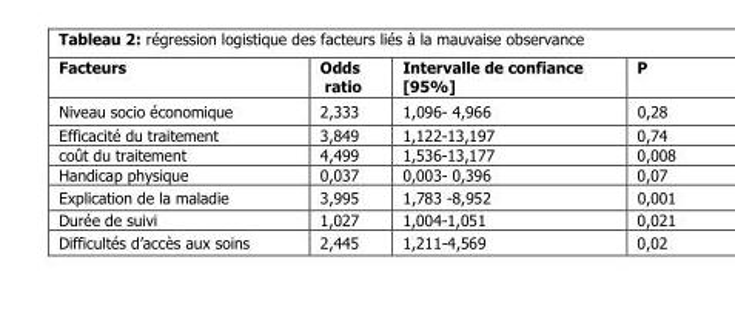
<table><thead><tr><td>Facteurs</td><td>Odds ratio</td><td>Intervalle de confiance [95%]</td><td>P</td></tr></thead><tbody><tr><td>Niveau socio économique</td><td>2,333</td><td>1,096- 4,966</td><td>0,28</td></tr><tr><td>Efficacité du traitement</td><td>3,849</td><td>1,122-13,197</td><td>0,74</td></tr><tr><td>coût du traitement</td><td>4,499</td><td>1,536-13,177</td><td>0,008</td></tr><tr><td>Handicap physique</td><td>0,037</td><td>0,003- 0,396</td><td>0,07</td></tr><tr><td>Explication de la maladie</td><td>3,995</td><td>1,783 -8,952</td><td>0,001</td></tr><tr><td>Durée de suivi</td><td>1,027</td><td>1,004-1,051</td><td>0,021</td></tr><tr><td>Difficultés d’accès aux soins</td><td>2,445</td><td>1,211-4,569</td><td>0,02</td></tr></tbody></table>